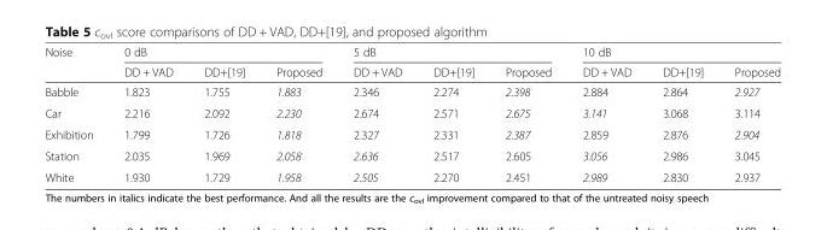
<table><thead><tr><td rowspan="2">Noise</td><td colspan="3">0 dB</td><td colspan="3">5 dB</td><td colspan="3">10 dB</td></tr><tr><td>DD + VAD</td><td>DD+[19]</td><td>Proposed</td><td>DD + VAD</td><td>DD+[19]</td><td>Proposed</td><td>DD + VAD</td><td>DD+[19]</td><td>Proposed</td></tr></thead><tbody><tr><td>Babble</td><td>1.823</td><td>1.755</td><td>1.883</td><td>2.346</td><td>2.274</td><td>2.398</td><td>2.884</td><td>2.864</td><td>2.927</td></tr><tr><td>Car</td><td>2.216</td><td>2.092</td><td>2.230</td><td>2.674</td><td>2.571</td><td>2.675</td><td>3.141</td><td>3.068</td><td>3.114</td></tr><tr><td>Exhibition</td><td>1.799</td><td>1.726</td><td>1.818</td><td>2.327</td><td>2.331</td><td>2.387</td><td>2.859</td><td>2.876</td><td>2.904</td></tr><tr><td>Station</td><td>2.035</td><td>1.969</td><td>2.058</td><td>2.636</td><td>2.517</td><td>2.605</td><td>3.056</td><td>2.986</td><td>3.045</td></tr><tr><td>White</td><td>1.930</td><td>1.729</td><td>1.958</td><td>2.505</td><td>2.270</td><td>2.451</td><td>2.989</td><td>2.830</td><td>2.937</td></tr></tbody></table>